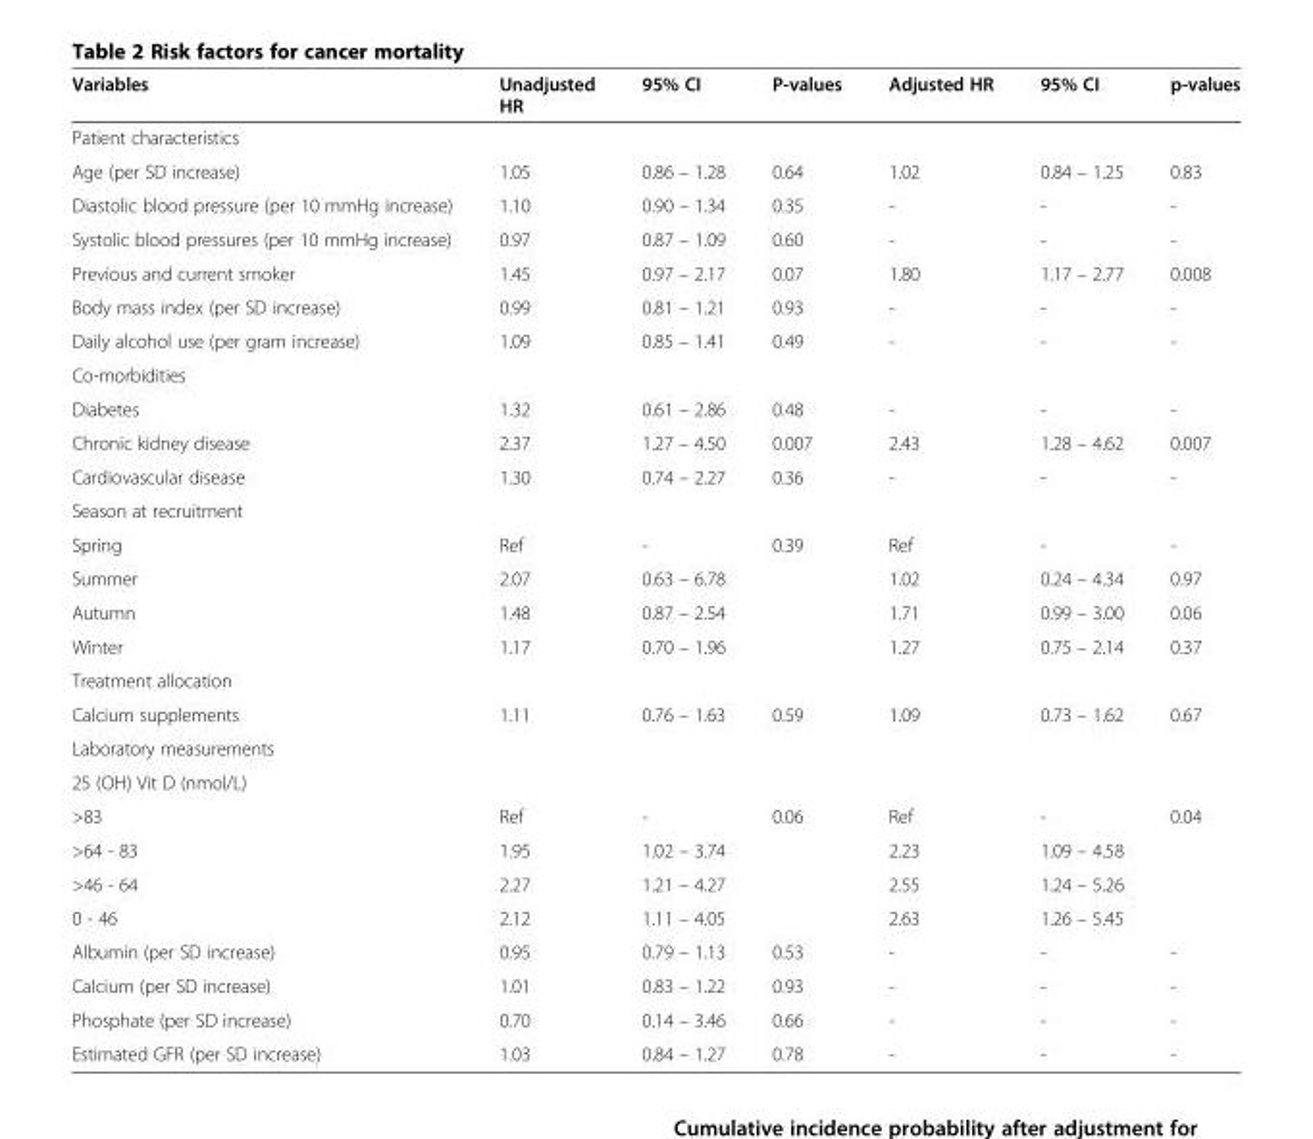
<table><thead><tr><td>Variables</td><td>Unadjusted HR</td><td>95% CI</td><td>P-values</td><td>Adjusted HR</td><td>95% CI</td><td>p-values</td></tr></thead><tbody><tr><td colspan="7">Patient characteristics</td></tr><tr><td>Age (per SD increase)</td><td>1.05</td><td>0.86 – 1.28</td><td>0.64</td><td>1.02</td><td>0.84 – 1.25</td><td>0.83</td></tr><tr><td>Diastolic blood pressure (per 10 mmHg increase)</td><td>1.10</td><td>0.90 – 1.34</td><td>0.35</td><td>-</td><td>-</td><td>-</td></tr><tr><td>Systolic blood pressures (per 10 mmHg increase)</td><td>0.97</td><td>0.87 – 1.09</td><td>0.60</td><td>-</td><td>-</td><td>-</td></tr><tr><td>Previous and current smoker</td><td>1.45</td><td>0.97 – 2.17</td><td>0.07</td><td>1.80</td><td>1.17 – 2.77</td><td>0.008</td></tr><tr><td>Body mass index (per SD increase)</td><td>0.99</td><td>0.81 – 1.21</td><td>0.93</td><td>-</td><td>-</td><td>-</td></tr><tr><td>Daily alcohol use (per gram increase)</td><td>1.09</td><td>0.85 – 1.41</td><td>0.49</td><td>-</td><td>-</td><td>-</td></tr><tr><td colspan="7">Co-morbidities</td></tr><tr><td>Diabetes</td><td>1.32</td><td>0.61 – 2.86</td><td>0.48</td><td>-</td><td>-</td><td>-</td></tr><tr><td>Chronic kidney disease</td><td>2.37</td><td>1.27 – 4.50</td><td>0.007</td><td>2.43</td><td>1.28 – 4.62</td><td>0.007</td></tr><tr><td>Cardiovascular disease</td><td>1.30</td><td>0.74 – 2.27</td><td>0.36</td><td>-</td><td>-</td><td>-</td></tr><tr><td colspan="7">Season at recruitment</td></tr><tr><td>Spring</td><td>Ref</td><td>-</td><td rowspan="4">0.39</td><td>Ref</td><td>-</td><td>-</td></tr><tr><td>Summer</td><td>2.07</td><td>0.63 – 6.78</td><td>1.02</td><td>0.24 – 4.34</td><td>0.97</td></tr><tr><td>Autumn</td><td>1.48</td><td>0.87 – 2.54</td><td>1.71</td><td>0.99 – 3.00</td><td>0.06</td></tr><tr><td>Winter</td><td>1.17</td><td>0.70 – 1.96</td><td>1.27</td><td>0.75 – 2.14</td><td>0.37</td></tr><tr><td colspan="7">Treatment allocation</td></tr><tr><td>Calcium supplements</td><td>1.11</td><td>0.76 – 1.63</td><td>0.59</td><td>1.09</td><td>0.73 – 1.62</td><td>0.67</td></tr><tr><td colspan="7">Laboratory measurements</td></tr><tr><td colspan="7">25 (OH) Vit D (nmol/L)</td></tr><tr><td>&gt;83</td><td>Ref</td><td>-</td><td rowspan="4">0.06</td><td>Ref</td><td>-</td><td rowspan="4">0.04</td></tr><tr><td>&gt;64 - 83</td><td>1.95</td><td>1.02 – 3.74</td><td>2.23</td><td>1.09 – 4.58</td></tr><tr><td>&gt;46 - 64</td><td>2.27</td><td>1.21 – 4.27</td><td>2.55</td><td>1.24 – 5.26</td></tr><tr><td>0 - 46</td><td>2.12</td><td>1.11 – 4.05</td><td>2.63</td><td>1.26 – 5.45</td></tr><tr><td>Albumin (per SD increase)</td><td>0.95</td><td>0.79 – 1.13</td><td>0.53</td><td>-</td><td>-</td><td>-</td></tr><tr><td>Calcium (per SD increase)</td><td>1.01</td><td>0.83 – 1.22</td><td>0.93</td><td>-</td><td>-</td><td>-</td></tr><tr><td>Phosphate (per SD increase)</td><td>0.70</td><td>0.14 – 3.46</td><td>0.66</td><td>-</td><td>-</td><td>-</td></tr><tr><td>Estimated GFR (per SD increase)</td><td>1.03</td><td>0.84 – 1.27</td><td>0.78</td><td>-</td><td>-</td><td>-</td></tr></tbody></table>